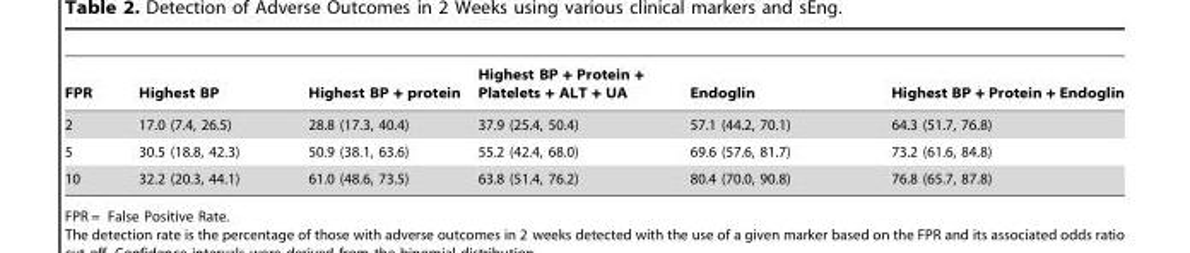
<table><thead><tr><td>FPR</td><td>Highest BP</td><td>Highest BP + protein</td><td>Highest BP + Protein + Platelets + ALT + UA</td><td>Endoglin</td><td>Highest BP + Protein + Endoglin</td></tr></thead><tbody><tr><td>2</td><td>17.0 (7.4, 26.5)</td><td>28.8 (17.3, 40.4)</td><td>37.9 (25.4, 50.4)</td><td>57.1 (44.2, 70.1)</td><td>64.3 (51.7, 76.8)</td></tr><tr><td>5</td><td>30.5 (18.8, 42.3)</td><td>50.9 (38.1, 63.6)</td><td>55.2 (42.4, 68.0)</td><td>69.6 (57.6, 81.7)</td><td>73.2 (61.6, 84.8)</td></tr><tr><td>10</td><td>32.2 (20.3, 44.1)</td><td>61.0 (48.6, 73.5)</td><td>63.8 (51.4, 76.2)</td><td>80.4 (70.0, 90.8)</td><td>76.8 (65.7, 87.8)</td></tr></tbody></table>